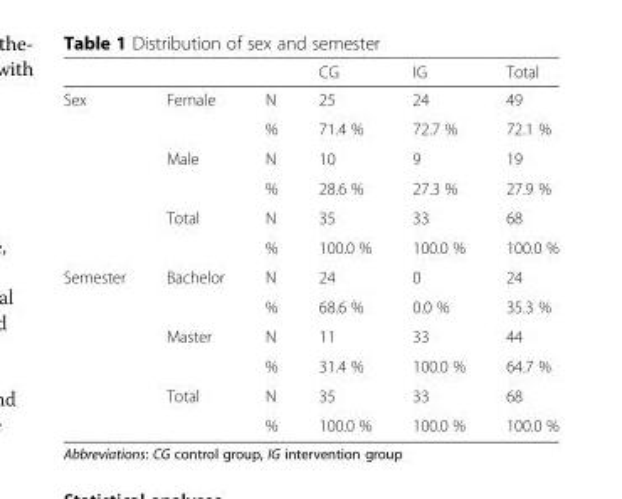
<table><thead><tr><td></td><td></td><td></td><td>CG</td><td>IG</td><td>Total</td></tr></thead><tbody><tr><td rowspan="6">Sex</td><td rowspan="2">Female</td><td>N</td><td>25</td><td>24</td><td>49</td></tr><tr><td>%</td><td>71.4 %</td><td>72.7 %</td><td>72.1 %</td></tr><tr><td rowspan="2">Male</td><td>N</td><td>10</td><td>9</td><td>19</td></tr><tr><td>%</td><td>28.6 %</td><td>27.3 %</td><td>27.9 %</td></tr><tr><td rowspan="2">Total</td><td>N</td><td>35</td><td>33</td><td>68</td></tr><tr><td>%</td><td>100.0 %</td><td>100.0 %</td><td>100.0 %</td></tr><tr><td rowspan="6">Semester</td><td rowspan="2">Bachelor</td><td>N</td><td>24</td><td>0</td><td>24</td></tr><tr><td>%</td><td>68.6 %</td><td>0.0 %</td><td>35.3 %</td></tr><tr><td rowspan="2">Master</td><td>N</td><td>11</td><td>33</td><td>44</td></tr><tr><td>%</td><td>31.4 %</td><td>100.0 %</td><td>64.7 %</td></tr><tr><td rowspan="2">Total</td><td>N</td><td>35</td><td>33</td><td>68</td></tr><tr><td>%</td><td>100.0 %</td><td>100.0 %</td><td>100.0 %</td></tr></tbody></table>